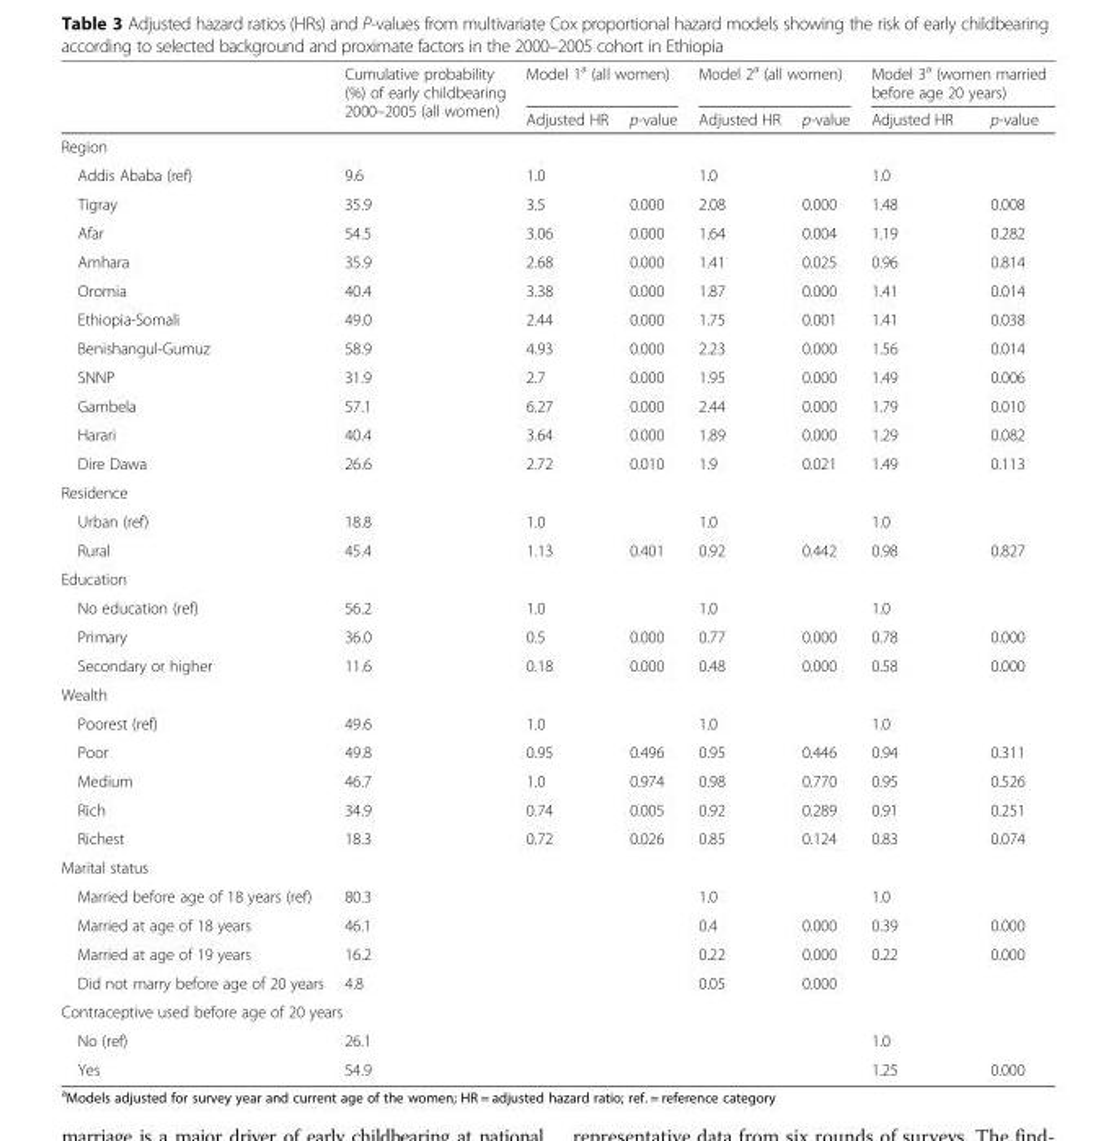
<table><thead><tr><td rowspan="2"></td><td rowspan="2">Cumulative probability (%) of early childbearing 2000–2005 (all women)</td><td colspan="2">Model 1<sup>a</sup> (all women)</td><td colspan="2">Model 2<sup>a</sup> (all women)</td><td colspan="2">Model 3<sup>a</sup> (women married before age 20 years)</td></tr><tr><td>Adjusted HR</td><td>p-value</td><td>Adjusted HR</td><td>p-value</td><td>Adjusted HR</td><td>p-value</td></tr></thead><tbody><tr><td colspan="8">Region</td></tr><tr><td>Addis Ababa (ref)</td><td>9.6</td><td>1.0</td><td></td><td>1.0</td><td></td><td>1.0</td><td></td></tr><tr><td>Tigray</td><td>35.9</td><td>3.5</td><td>0.000</td><td>2.08</td><td>0.000</td><td>1.48</td><td>0.008</td></tr><tr><td>Afar</td><td>54.5</td><td>3.06</td><td>0.000</td><td>1.64</td><td>0.004</td><td>1.19</td><td>0.282</td></tr><tr><td>Amhara</td><td>35.9</td><td>2.68</td><td>0.000</td><td>1.41</td><td>0.025</td><td>0.96</td><td>0.814</td></tr><tr><td>Oromia</td><td>40.4</td><td>3.38</td><td>0.000</td><td>1.87</td><td>0.000</td><td>1.41</td><td>0.014</td></tr><tr><td>Ethiopia-Somali</td><td>49.0</td><td>2.44</td><td>0.000</td><td>1.75</td><td>0.001</td><td>1.41</td><td>0.038</td></tr><tr><td>Benishangul-Gumuz</td><td>58.9</td><td>4.93</td><td>0.000</td><td>2.23</td><td>0.000</td><td>1.56</td><td>0.014</td></tr><tr><td>SNNP</td><td>31.9</td><td>2.7</td><td>0.000</td><td>1.95</td><td>0.000</td><td>1.49</td><td>0.006</td></tr><tr><td>Gambela</td><td>57.1</td><td>6.27</td><td>0.000</td><td>2.44</td><td>0.000</td><td>1.79</td><td>0.010</td></tr><tr><td>Harari</td><td>40.4</td><td>3.64</td><td>0.000</td><td>1.89</td><td>0.000</td><td>1.29</td><td>0.082</td></tr><tr><td>Dire Dawa</td><td>26.6</td><td>2.72</td><td>0.010</td><td>1.9</td><td>0.021</td><td>1.49</td><td>0.113</td></tr><tr><td colspan="8">Residence</td></tr><tr><td>Urban (ref)</td><td>18.8</td><td>1.0</td><td></td><td>1.0</td><td></td><td>1.0</td><td></td></tr><tr><td>Rural</td><td>45.4</td><td>1.13</td><td>0.401</td><td>0.92</td><td>0.442</td><td>0.98</td><td>0.827</td></tr><tr><td colspan="8">Education</td></tr><tr><td>No education (ref)</td><td>56.2</td><td>1.0</td><td></td><td>1.0</td><td></td><td>1.0</td><td></td></tr><tr><td>Primary</td><td>36.0</td><td>0.5</td><td>0.000</td><td>0.77</td><td>0.000</td><td>0.78</td><td>0.000</td></tr><tr><td>Secondary or higher</td><td>11.6</td><td>0.18</td><td>0.000</td><td>0.48</td><td>0.000</td><td>0.58</td><td>0.000</td></tr><tr><td colspan="8">Wealth</td></tr><tr><td>Poorest (ref)</td><td>49.6</td><td>1.0</td><td></td><td>1.0</td><td></td><td>1.0</td><td></td></tr><tr><td>Poor</td><td>49.8</td><td>0.95</td><td>0.496</td><td>0.95</td><td>0.446</td><td>0.94</td><td>0.311</td></tr><tr><td>Medium</td><td>46.7</td><td>1.0</td><td>0.974</td><td>0.98</td><td>0.770</td><td>0.95</td><td>0.526</td></tr><tr><td>Rich</td><td>34.9</td><td>0.74</td><td>0.005</td><td>0.92</td><td>0.289</td><td>0.91</td><td>0.251</td></tr><tr><td>Richest</td><td>18.3</td><td>0.72</td><td>0.026</td><td>0.85</td><td>0.124</td><td>0.83</td><td>0.074</td></tr><tr><td colspan="8">Marital status</td></tr><tr><td>Married before age of 18 years (ref)</td><td>80.3</td><td></td><td></td><td>1.0</td><td></td><td>1.0</td><td></td></tr><tr><td>Married at age of 18 years</td><td>46.1</td><td></td><td></td><td>0.4</td><td>0.000</td><td>0.39</td><td>0.000</td></tr><tr><td>Married at age of 19 years</td><td>16.2</td><td></td><td></td><td>0.22</td><td>0.000</td><td>0.22</td><td>0.000</td></tr><tr><td>Did not marry before age of 20 years</td><td>4.8</td><td></td><td></td><td>0.05</td><td>0.000</td><td></td><td></td></tr><tr><td colspan="8">Contraceptive used before age of 20 years</td></tr><tr><td>No (ref)</td><td>26.1</td><td></td><td></td><td></td><td></td><td>1.0</td><td></td></tr><tr><td>Yes</td><td>54.9</td><td></td><td></td><td></td><td></td><td>1.25</td><td>0.000</td></tr></tbody></table>